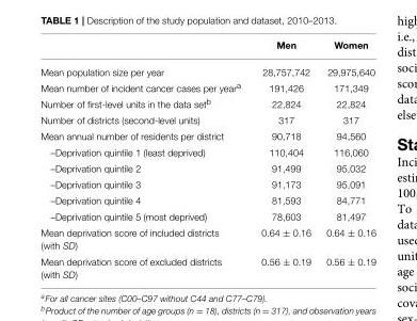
<table><thead><tr><td></td><td>Men</td><td>Women</td></tr></thead><tbody><tr><td>Mean population size per year</td><td>28,757,742</td><td>29,975,640</td></tr><tr><td>Mean number of incident cancer cases per year<sup>a</sup></td><td>191,426</td><td>171,349</td></tr><tr><td>Number of first-level units in the data set<sup>b</sup></td><td>22,824</td><td>22,824</td></tr><tr><td>Number of districts (second-level units)</td><td>317</td><td>317</td></tr><tr><td>Mean annual number of residents per district</td><td>90,718</td><td>94,560</td></tr><tr><td>–Deprivation quintile 1 (least deprived)</td><td>110,404</td><td>116,060</td></tr><tr><td>–Deprivation quintile 2</td><td>91,499</td><td>95,032</td></tr><tr><td>–Deprivation quintile 3</td><td>91,173</td><td>95,091</td></tr><tr><td>–Deprivation quintile 4</td><td>81,593</td><td>84,771</td></tr><tr><td>–Deprivation quintile 5 (most deprived)</td><td>78,603</td><td>81,497</td></tr><tr><td>Mean deprivation score of included districts (with SD)</td><td>0.64 ± 0.16</td><td>0.64 ± 0.16</td></tr><tr><td>Mean deprivation score of excluded districts (with SD)</td><td>0.56 ± 0.19</td><td>0.56 ± 0.19</td></tr></tbody></table>